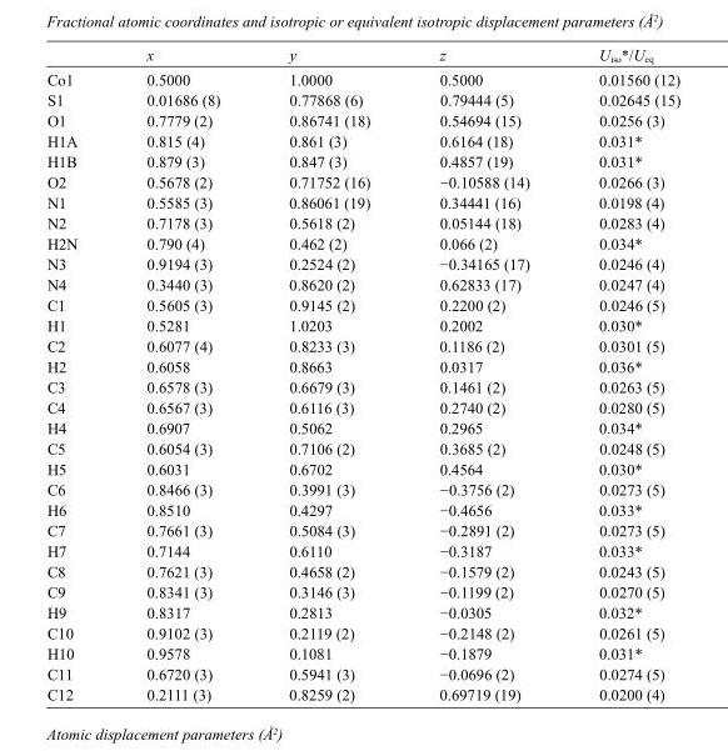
<table><thead><tr><td></td><td>x</td><td>y</td><td>z</td><td>U<sub>iso</sub>*/U<sub>eq</sub></td></tr></thead><tbody><tr><td>Co1</td><td>0.5000</td><td>1.0000</td><td>0.5000</td><td>0.01560 (12)</td></tr><tr><td>S1</td><td>0.01686 (8)</td><td>0.77868 (6)</td><td>0.79444 (5)</td><td>0.02645 (15)</td></tr><tr><td>O1</td><td>0.7779 (2)</td><td>0.86741 (18)</td><td>0.54694 (15)</td><td>0.0256 (3)</td></tr><tr><td>H1A</td><td>0.815 (4)</td><td>0.861 (3)</td><td>0.6164 (18)</td><td>0.031*</td></tr><tr><td>H1B</td><td>0.879 (3)</td><td>0.847 (3)</td><td>0.4857 (19)</td><td>0.031*</td></tr><tr><td>O2</td><td>0.5678 (2)</td><td>0.71752 (16)</td><td>−0.10588 (14)</td><td>0.0266 (3)</td></tr><tr><td>N1</td><td>0.5585 (3)</td><td>0.86061 (19)</td><td>0.34441 (16)</td><td>0.0198 (4)</td></tr><tr><td>N2</td><td>0.7178 (3)</td><td>0.5618 (2)</td><td>0.05144 (18)</td><td>0.0283 (4)</td></tr><tr><td>H2N</td><td>0.790 (4)</td><td>0.462 (2)</td><td>0.066 (2)</td><td>0.034*</td></tr><tr><td>N3</td><td>0.9194 (3)</td><td>0.2524 (2)</td><td>−0.34165 (17)</td><td>0.0246 (4)</td></tr><tr><td>N4</td><td>0.3440 (3)</td><td>0.8620 (2)</td><td>0.62833 (17)</td><td>0.0247 (4)</td></tr><tr><td>C1</td><td>0.5605 (3)</td><td>0.9145 (2)</td><td>0.2200 (2)</td><td>0.0246 (5)</td></tr><tr><td>H1</td><td>0.5281</td><td>1.0203</td><td>0.2002</td><td>0.030*</td></tr><tr><td>C2</td><td>0.6077 (4)</td><td>0.8233 (3)</td><td>0.1186 (2)</td><td>0.0301 (5)</td></tr><tr><td>H2</td><td>0.6058</td><td>0.8663</td><td>0.0317</td><td>0.036*</td></tr><tr><td>C3</td><td>0.6578 (3)</td><td>0.6679 (3)</td><td>0.1461 (2)</td><td>0.0263 (5)</td></tr><tr><td>C4</td><td>0.6567 (3)</td><td>0.6116 (3)</td><td>0.2740 (2)</td><td>0.0280 (5)</td></tr><tr><td>H4</td><td>0.6907</td><td>0.5062</td><td>0.2965</td><td>0.034*</td></tr><tr><td>C5</td><td>0.6054 (3)</td><td>0.7106 (2)</td><td>0.3685 (2)</td><td>0.0248 (5)</td></tr><tr><td>H5</td><td>0.6031</td><td>0.6702</td><td>0.4564</td><td>0.030*</td></tr><tr><td>C6</td><td>0.8466 (3)</td><td>0.3991 (3)</td><td>−0.3756 (2)</td><td>0.0273 (5)</td></tr><tr><td>H6</td><td>0.8510</td><td>0.4297</td><td>−0.4656</td><td>0.033*</td></tr><tr><td>C7</td><td>0.7661 (3)</td><td>0.5084 (3)</td><td>−0.2891 (2)</td><td>0.0273 (5)</td></tr><tr><td>H7</td><td>0.7144</td><td>0.6110</td><td>−0.3187</td><td>0.033*</td></tr><tr><td>C8</td><td>0.7621 (3)</td><td>0.4658 (2)</td><td>−0.1579 (2)</td><td>0.0243 (5)</td></tr><tr><td>C9</td><td>0.8341 (3)</td><td>0.3146 (3)</td><td>−0.1199 (2)</td><td>0.0270 (5)</td></tr><tr><td>H9</td><td>0.8317</td><td>0.2813</td><td>−0.0305</td><td>0.032*</td></tr><tr><td>C10</td><td>0.9102 (3)</td><td>0.2119 (2)</td><td>−0.2148 (2)</td><td>0.0261 (5)</td></tr><tr><td>H10</td><td>0.9578</td><td>0.1081</td><td>−0.1879</td><td>0.031*</td></tr><tr><td>C11</td><td>0.6720 (3)</td><td>0.5941 (3)</td><td>−0.0696 (2)</td><td>0.0274 (5)</td></tr><tr><td>C12</td><td>0.2111 (3)</td><td>0.8259 (2)</td><td>0.69719 (19)</td><td>0.0200 (4)</td></tr></tbody></table>